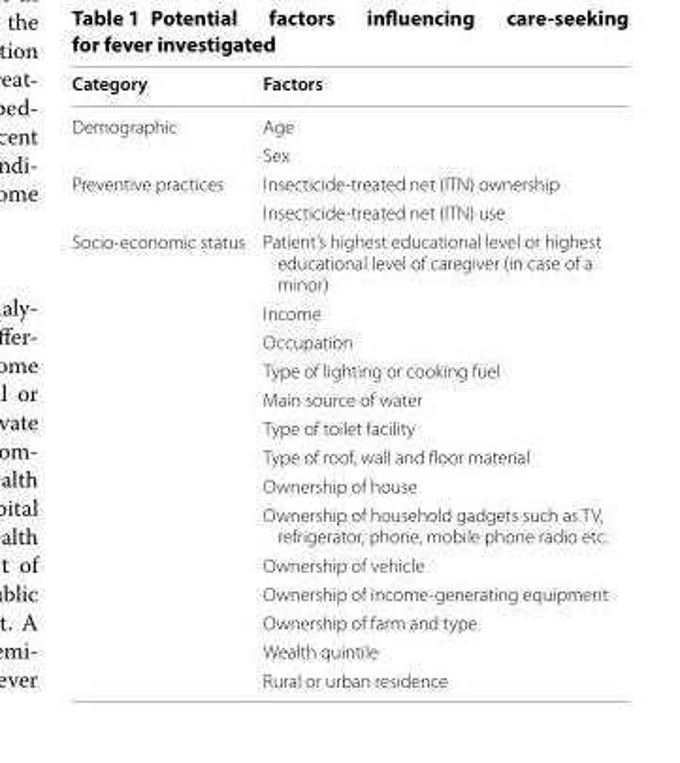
<table><thead><tr><td>Category</td><td>Factors</td></tr></thead><tbody><tr><td rowspan="2">Demographic</td><td>Age</td></tr><tr><td>Sex</td></tr><tr><td rowspan="2">Preventive practices</td><td>Insecticide‑treated net (ITN) ownership</td></tr><tr><td>Insecticide‑treated net (ITN) use</td></tr><tr><td rowspan="14">Socio‑economic status</td><td>Patient’s highest educational level or highest educational level of caregiver (in case of a minor)</td></tr><tr><td>Income</td></tr><tr><td>Occupation</td></tr><tr><td>Type of lighting or cooking fuel</td></tr><tr><td>Main source of water</td></tr><tr><td>Type of toilet facility</td></tr><tr><td>Type of roof, wall and floor material</td></tr><tr><td>Ownership of house</td></tr><tr><td>Ownership of household gadgets such as TV, refrigerator, phone, mobile phone radio etc.</td></tr><tr><td>Ownership of vehicle</td></tr><tr><td>Ownership of income‑generating equipment</td></tr><tr><td>Ownership of farm and type</td></tr><tr><td>Wealth quintile</td></tr><tr><td>Rural or urban residence</td></tr></tbody></table>